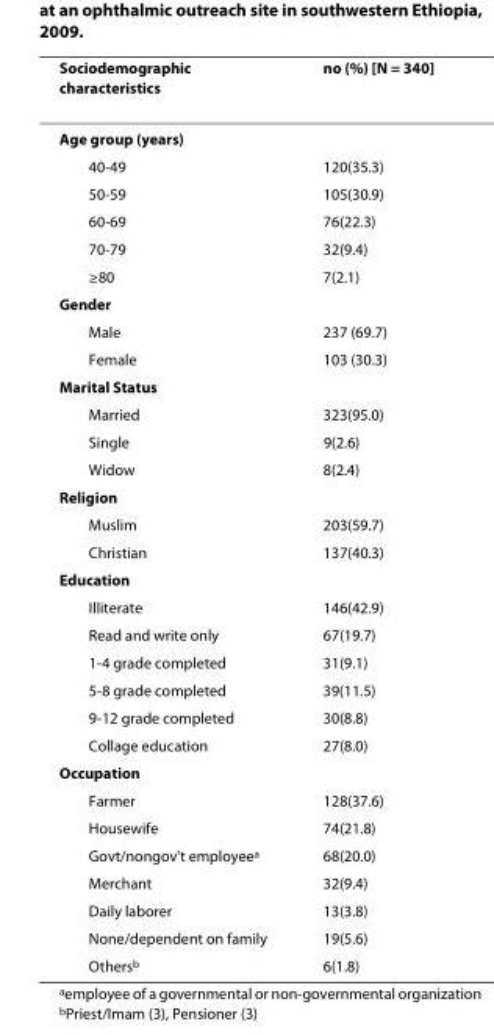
<table><thead><tr><td>Sociodemographic characteristics</td><td>no (%) [N = 340]</td></tr></thead><tbody><tr><td colspan="2">Age group (years)</td></tr><tr><td>40-49</td><td>120(35.3)</td></tr><tr><td>50-59</td><td>105(30.9)</td></tr><tr><td>60-69</td><td>76(22.3)</td></tr><tr><td>70-79</td><td>32(9.4)</td></tr><tr><td>≥80</td><td>7(2.1)</td></tr><tr><td colspan="2">Gender</td></tr><tr><td>Male</td><td>237 (69.7)</td></tr><tr><td>Female</td><td>103 (30.3)</td></tr><tr><td colspan="2">Marital Status</td></tr><tr><td>Married</td><td>323(95.0)</td></tr><tr><td>Single</td><td>9(2.6)</td></tr><tr><td>Widow</td><td>8(2.4)</td></tr><tr><td colspan="2">Religion</td></tr><tr><td>Muslim</td><td>203(59.7)</td></tr><tr><td>Christian</td><td>137(40.3)</td></tr><tr><td colspan="2">Education</td></tr><tr><td>Illiterate</td><td>146(42.9)</td></tr><tr><td>Read and write only</td><td>67(19.7)</td></tr><tr><td>1-4 grade completed</td><td>31(9.1)</td></tr><tr><td>5-8 grade completed</td><td>39(11.5)</td></tr><tr><td>9-12 grade completed</td><td>30(8.8)</td></tr><tr><td>Collage education</td><td>27(8.0)</td></tr><tr><td colspan="2">Occupation</td></tr><tr><td>Farmer</td><td>128(37.6)</td></tr><tr><td>Housewife</td><td>74(21.8)</td></tr><tr><td>Govt/nongov&#x27;t employee<sup>a</sup></td><td>68(20.0)</td></tr><tr><td>Merchant</td><td>32(9.4)</td></tr><tr><td>Daily laborer</td><td>13(3.8)</td></tr><tr><td>None/dependent on family</td><td>19(5.6)</td></tr><tr><td>Others<sup>b</sup></td><td>6(1.8)</td></tr></tbody></table>